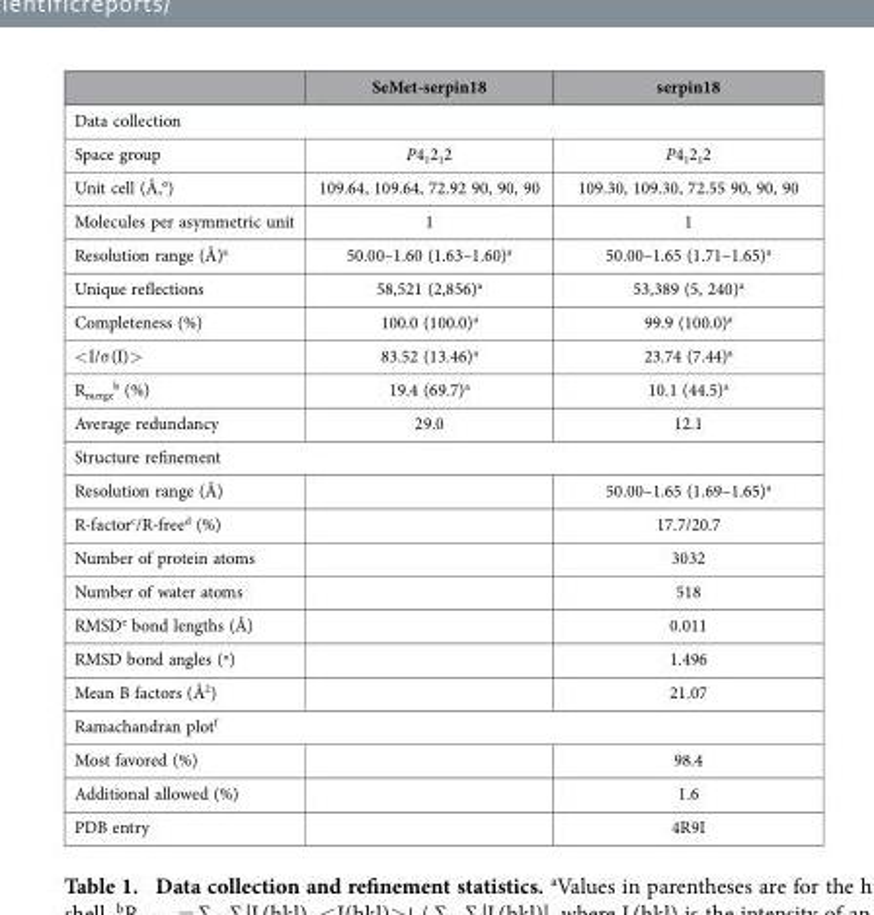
<table><thead><tr><td></td><td>SeMet-serpin18</td><td>serpin18</td></tr></thead><tbody><tr><td colspan="3">Data collection</td></tr><tr><td>Space group</td><td>P4<sub>1</sub>2<sub>1</sub>2</td><td>P4<sub>1</sub>2<sub>1</sub>2</td></tr><tr><td>Unit cell (Å,°)</td><td>109.64, 109.64, 72.92 90, 90, 90</td><td>109.30, 109.30, 72.55 90, 90, 90</td></tr><tr><td>Molecules per asymmetric unit</td><td>1</td><td>1</td></tr><tr><td>Resolution range (Å)<sup>a</sup></td><td>50.00–1.60 (1.63–1.60)<sup>a</sup></td><td>50.00–1.65 (1.71–1.65)<sup>a</sup></td></tr><tr><td>Unique reflections</td><td>58,521 (2,856)<sup>a</sup></td><td>53,389 (5, 240)<sup>a</sup></td></tr><tr><td>Completeness (%)</td><td>100.0 (100.0)<sup>a</sup></td><td>99.9 (100.0)<sup>a</sup></td></tr><tr><td>&lt; I/σ (I)&gt;</td><td>83.52 (13.46)<sup>a</sup></td><td>23.74 (7.44)<sup>a</sup></td></tr><tr><td>R<sub>merge</sub> <sup>b</sup> (%)</td><td>19.4 (69.7)<sup>a</sup></td><td>10.1 (44.5)<sup>a</sup></td></tr><tr><td>Average redundancy</td><td>29.0</td><td>12.1</td></tr><tr><td colspan="3">Structure refinement</td></tr><tr><td>Resolution range (Å)</td><td></td><td>50.00–1.65 (1.69–1.65)<sup>a</sup></td></tr><tr><td>R-factor<sup>c</sup>/R-free<sup>d</sup> (%)</td><td></td><td>17.7/20.7</td></tr><tr><td>Number of protein atoms</td><td></td><td>3032</td></tr><tr><td>Number of water atoms</td><td></td><td>518</td></tr><tr><td>RMSD<sup>e</sup> bond lengths (Å)</td><td></td><td>0.011</td></tr><tr><td>RMSD bond angles (º)</td><td></td><td>1.496</td></tr><tr><td>Mean B factors (Å<sup>2</sup>)</td><td></td><td>21.07</td></tr><tr><td colspan="3">Ramachandran plot<sup>f</sup></td></tr><tr><td>Most favored (%)</td><td></td><td>98.4</td></tr><tr><td>Additional allowed (%)</td><td></td><td>1.6</td></tr><tr><td>PDB entry</td><td></td><td>4R9I</td></tr></tbody></table>